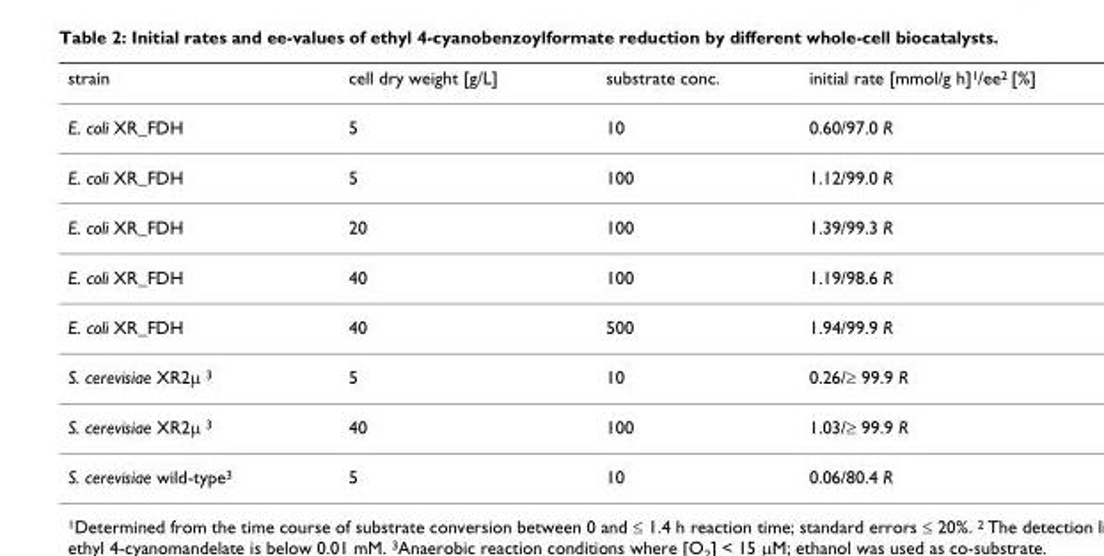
<table><thead><tr><td>strain</td><td>cell dry weight [g/L]</td><td>substrate conc.</td><td>initial rate [mmol/g h]<sup>1</sup>/ee<sup>2</sup> [%]</td></tr></thead><tbody><tr><td>E. coli XR_FDH</td><td>5</td><td>10</td><td>0.60/97.0 R</td></tr><tr><td>E. coli XR_FDH</td><td>5</td><td>100</td><td>1.12/99.0 R</td></tr><tr><td>E. coli XR_FDH</td><td>20</td><td>100</td><td>1.39/99.3 R</td></tr><tr><td>E. coli XR_FDH</td><td>40</td><td>100</td><td>1.19/98.6 R</td></tr><tr><td>E. coli XR_FDH</td><td>40</td><td>500</td><td>1.94/99.9 R</td></tr><tr><td>S. cerevisiae XR2μ <sup>3</sup></td><td>5</td><td>10</td><td>0.26/≥ 99.9 R</td></tr><tr><td>S. cerevisiae XR2μ <sup>3</sup></td><td>40</td><td>100</td><td>1.03/≥ 99.9 R</td></tr><tr><td>S. cerevisiae wild-type<sup>3</sup></td><td>5</td><td>10</td><td>0.06/80.4 R</td></tr></tbody></table>